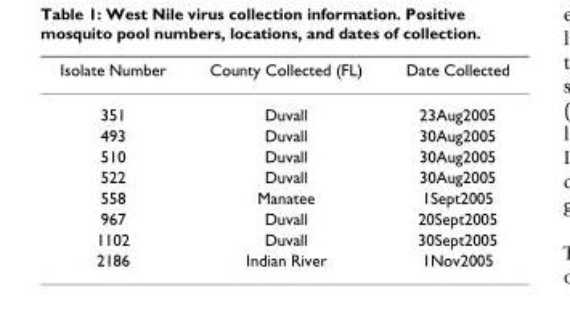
<table><thead><tr><td>Isolate Number</td><td>County Collected (FL)</td><td>Date Collected</td></tr></thead><tbody><tr><td>351</td><td>Duvall</td><td>23Aug2005</td></tr><tr><td>493</td><td>Duvall</td><td>30Aug2005</td></tr><tr><td>510</td><td>Duvall</td><td>30Aug2005</td></tr><tr><td>522</td><td>Duvall</td><td>30Aug2005</td></tr><tr><td>558</td><td>Manatee</td><td>1Sept2005</td></tr><tr><td>967</td><td>Duvall</td><td>20Sept2005</td></tr><tr><td>1102</td><td>Duvall</td><td>30Sept2005</td></tr><tr><td>2186</td><td>Indian River</td><td>1Nov2005</td></tr></tbody></table>